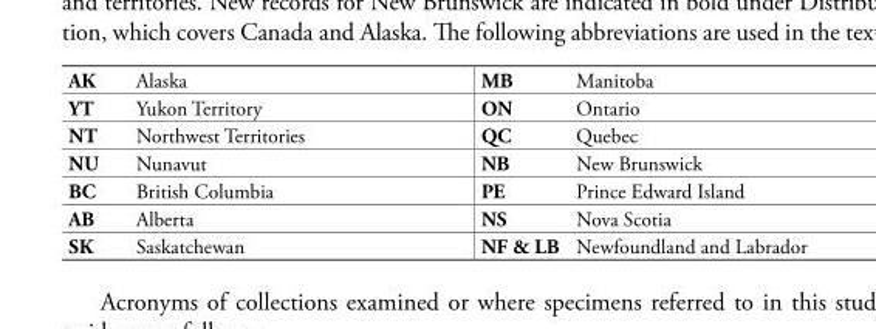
<table><tbody><tr><td>AK</td><td>Alaska</td><td>MB</td><td>Manitoba</td></tr><tr><td>YT</td><td>Yukon Territory</td><td>ON</td><td>Ontario</td></tr><tr><td>NT</td><td>Northwest Territories</td><td>QC</td><td>Quebec</td></tr><tr><td>NU</td><td>Nunavut</td><td>NB</td><td>New Brunswick</td></tr><tr><td>BC</td><td>British Columbia</td><td>PE</td><td>Prince Edward Island</td></tr><tr><td>AB</td><td>Alberta</td><td>NS</td><td>Nova Scotia</td></tr><tr><td>SK</td><td>Saskatchewan</td><td>NF &amp; LB</td><td>Newfoundland and Labrador</td></tr></tbody></table>